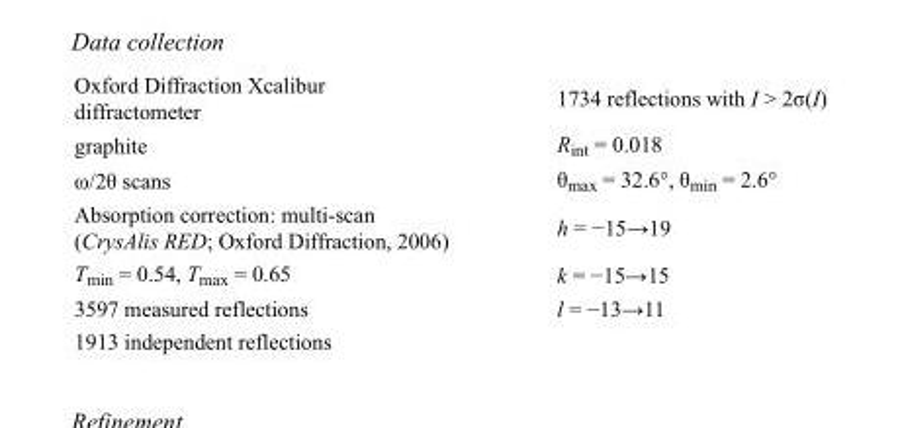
<table><tbody><tr><td>Oxford Diffraction Xcalibur diffractometer</td><td>1734 reflections with I &gt; 2σ(I)</td></tr><tr><td>graphite</td><td>R<sub>int</sub> = 0.018</td></tr><tr><td>ω/2θ scans</td><td>θ<sub>max</sub> = 32.6°, θ<sub>min</sub> = 2.6°</td></tr><tr><td>Absorption correction: multi-scan (CrysAlis RED; Oxford Diffraction, 2006)</td><td>h = −15→19</td></tr><tr><td>T<sub>min</sub> = 0.54, T<sub>max</sub> = 0.65</td><td>k = −15→15</td></tr><tr><td>3597 measured reflections</td><td>l = −13→11</td></tr><tr><td>1913 independent reflections</td><td></td></tr></tbody></table>